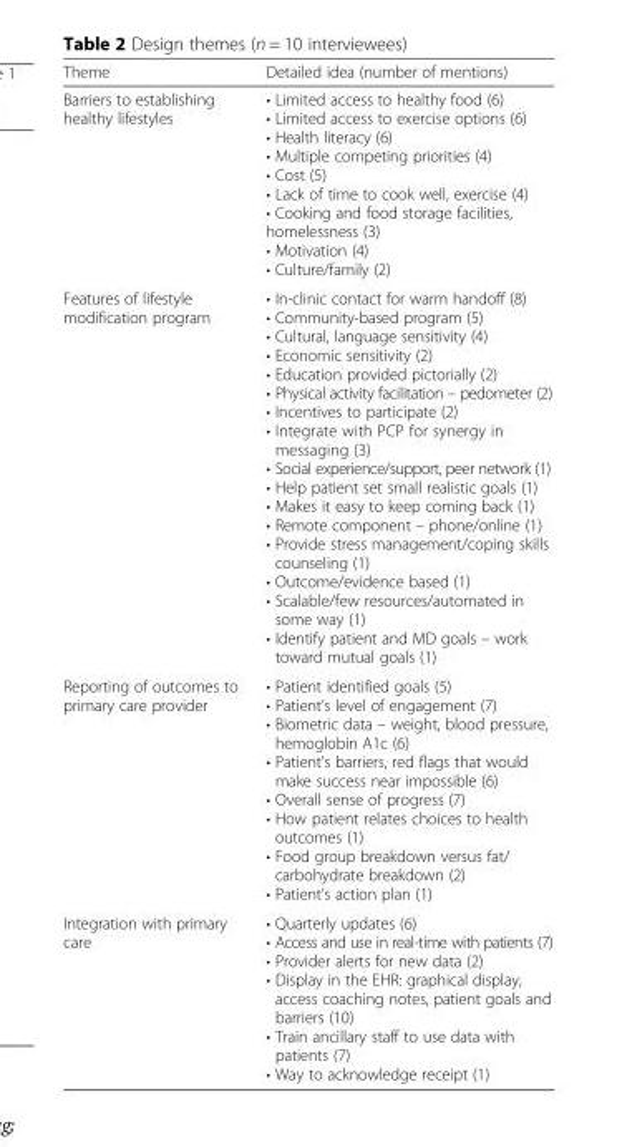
<table><thead><tr><td>Theme</td><td>Detailed idea (number of mentions)</td></tr></thead><tbody><tr><td>Barriers to establishing healthy lifestyles</td><td>• Limited access to healthy food (6) • Limited access to exercise options (6) • Health literacy (6) • Multiple competing priorities (4) • Cost (5) • Lack of time to cook well, exercise (4) • Cooking and food storage facilities, homelessness (3) • Motivation (4) • Culture/family (2)</td></tr><tr><td>Features of lifestyle modification program</td><td>• In-clinic contact for warm handoff (8) • Community-based program (5) • Cultural, language sensitivity (4) • Economic sensitivity (2) • Education provided pictorially (2) • Physical activity facilitation – pedometer (2) • Incentives to participate (2) • Integrate with PCP for synergy in messaging (3) • Social experience/support, peer network (1) • Help patient set small realistic goals (1) • Makes it easy to keep coming back (1) • Remote component – phone/online (1) • Provide stress management/coping skills counseling (1) • Outcome/evidence based (1) • Scalable/few resources/automated in some way (1) • Identify patient and MD goals – work toward mutual goals (1)</td></tr><tr><td>Reporting of outcomes to primary care provider</td><td>• Patient identified goals (5) • Patient’s level of engagement (7) • Biometric data – weight, blood pressure, hemoglobin A1c (6) • Patient’s barriers, red flags that would make success near impossible (6) • Overall sense of progress (7) • How patient relates choices to health outcomes (1) • Food group breakdown versus fat/ carbohydrate breakdown (2) • Patient’s action plan (1)</td></tr><tr><td>Integration with primary care</td><td>• Quarterly updates (6) • Access and use in real-time with patients (7) • Provider alerts for new data (2) • Display in the EHR: graphical display, access coaching notes, patient goals and barriers (10) • Train ancillary staff to use data with patients (7) • Way to acknowledge receipt (1)</td></tr></tbody></table>